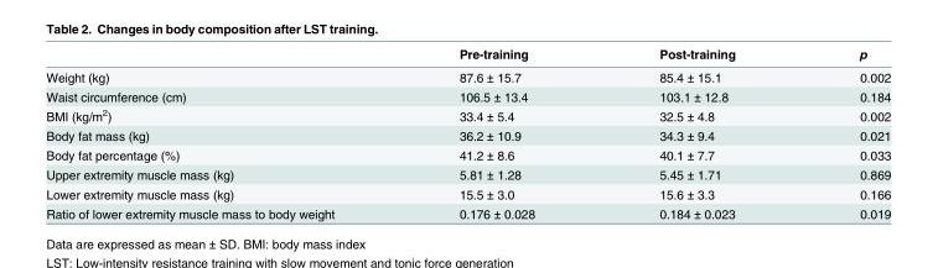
<table><thead><tr><td></td><td>Pre-training</td><td>Post-training</td><td>p</td></tr></thead><tbody><tr><td>Weight (kg)</td><td>87.6 ± 15.7</td><td>85.4 ± 15.1</td><td>0.002</td></tr><tr><td>Waist circumference (cm)</td><td>106.5 ± 13.4</td><td>103.1 ± 12.8</td><td>0.184</td></tr><tr><td>BMI (kg/m<sup>2</sup>)</td><td>33.4 ± 5.4</td><td>32.5 ± 4.8</td><td>0.002</td></tr><tr><td>Body fat mass (kg)</td><td>36.2 ± 10.9</td><td>34.3 ± 9.4</td><td>0.021</td></tr><tr><td>Body fat percentage (%)</td><td>41.2 ± 8.6</td><td>40.1 ± 7.7</td><td>0.033</td></tr><tr><td>Upper extremity muscle mass (kg)</td><td>5.81 ± 1.28</td><td>5.45 ± 1.71</td><td>0.869</td></tr><tr><td>Lower extremity muscle mass (kg)</td><td>15.5 ± 3.0</td><td>15.6 ± 3.3</td><td>0.166</td></tr><tr><td>Ratio of lower extremity muscle mass to body weight</td><td>0.176 ± 0.028</td><td>0.184 ± 0.023</td><td>0.019</td></tr></tbody></table>